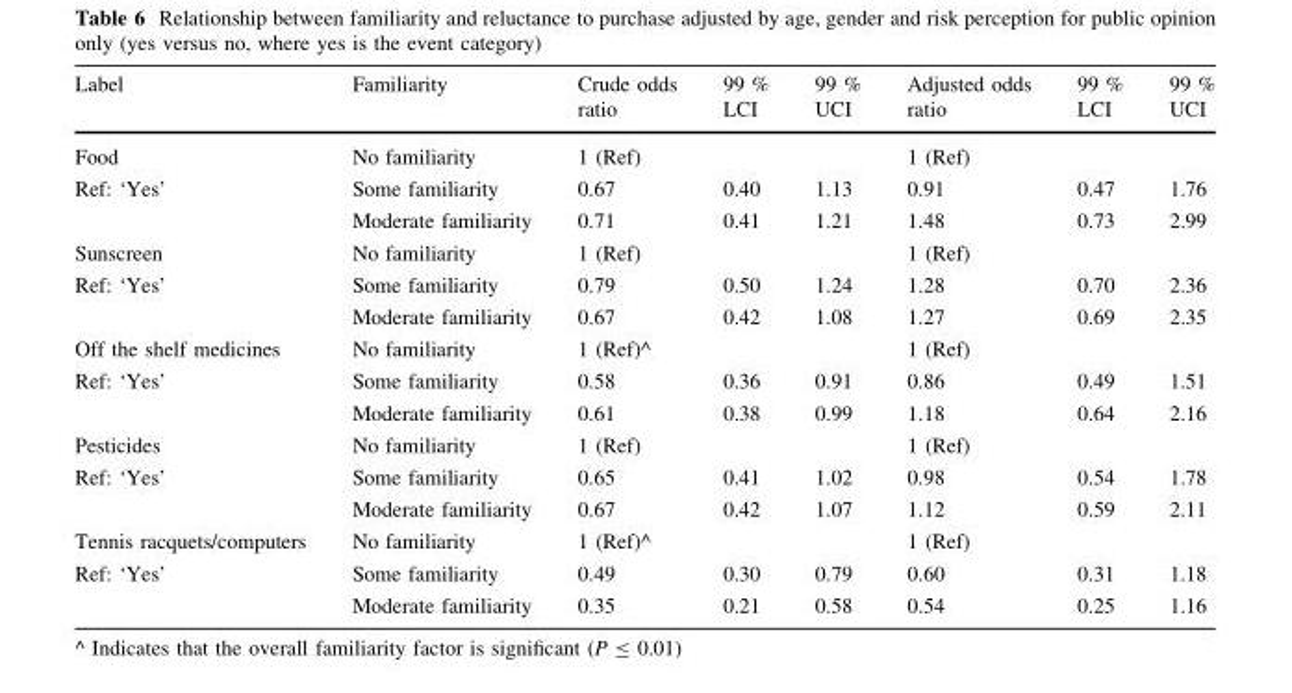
<table><thead><tr><td>Label</td><td>Familiarity</td><td>Crude odds ratio</td><td>99 % LCI</td><td>99 % UCI</td><td>Adjusted odds ratio</td><td>99 % LCI</td><td>99 % UCI</td></tr></thead><tbody><tr><td rowspan="3">Food Ref: ‘Yes’</td><td>No familiarity</td><td>1 (Ref)</td><td></td><td></td><td>1 (Ref)</td><td></td><td></td></tr><tr><td>Some familiarity</td><td>0.67</td><td>0.40</td><td>1.13</td><td>0.91</td><td>0.47</td><td>1.76</td></tr><tr><td>Moderate familiarity</td><td>0.71</td><td>0.41</td><td>1.21</td><td>1.48</td><td>0.73</td><td>2.99</td></tr><tr><td rowspan="3">Sunscreen Ref: ‘Yes’</td><td>No familiarity</td><td>1 (Ref)</td><td></td><td></td><td>1 (Ref)</td><td></td><td></td></tr><tr><td>Some familiarity</td><td>0.79</td><td>0.50</td><td>1.24</td><td>1.28</td><td>0.70</td><td>2.36</td></tr><tr><td>Moderate familiarity</td><td>0.67</td><td>0.42</td><td>1.08</td><td>1.27</td><td>0.69</td><td>2.35</td></tr><tr><td rowspan="3">Off the shelf medicines Ref: ‘Yes’</td><td>No familiarity</td><td>1 (Ref)^</td><td></td><td></td><td>1 (Ref)</td><td></td><td></td></tr><tr><td>Some familiarity</td><td>0.58</td><td>0.36</td><td>0.91</td><td>0.86</td><td>0.49</td><td>1.51</td></tr><tr><td>Moderate familiarity</td><td>0.61</td><td>0.38</td><td>0.99</td><td>1.18</td><td>0.64</td><td>2.16</td></tr><tr><td rowspan="3">Pesticides Ref: ‘Yes’</td><td>No familiarity</td><td>1 (Ref)</td><td></td><td></td><td>1 (Ref)</td><td></td><td></td></tr><tr><td>Some familiarity</td><td>0.65</td><td>0.41</td><td>1.02</td><td>0.98</td><td>0.54</td><td>1.78</td></tr><tr><td>Moderate familiarity</td><td>0.67</td><td>0.42</td><td>1.07</td><td>1.12</td><td>0.59</td><td>2.11</td></tr><tr><td rowspan="3">Tennis racquets/computers Ref: ‘Yes’</td><td>No familiarity</td><td>1 (Ref)^</td><td></td><td></td><td>1 (Ref)</td><td></td><td></td></tr><tr><td>Some familiarity</td><td>0.49</td><td>0.30</td><td>0.79</td><td>0.60</td><td>0.31</td><td>1.18</td></tr><tr><td>Moderate familiarity</td><td>0.35</td><td>0.21</td><td>0.58</td><td>0.54</td><td>0.25</td><td>1.16</td></tr></tbody></table>